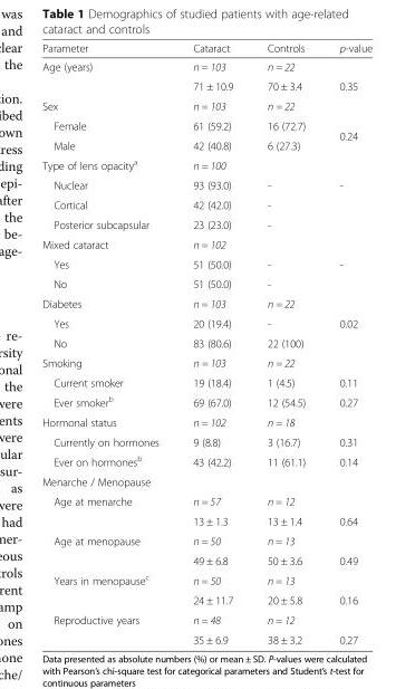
<table><thead><tr><td>Parameter</td><td>Cataract</td><td>Controls</td><td>p-value</td></tr></thead><tbody><tr><td rowspan="2">Age (years)</td><td>n = 103</td><td>n = 22</td><td></td></tr><tr><td>71 ± 10.9</td><td>70 ± 3.4</td><td>0.35</td></tr><tr><td>Sex</td><td>n = 103</td><td>n = 22</td><td></td></tr><tr><td>Female</td><td>61 (59.2)</td><td>16 (72.7)</td><td rowspan="2">0.24</td></tr><tr><td>Male</td><td>42 (40.8)</td><td>6 (27.3)</td></tr><tr><td>Type of lens opacity<sup>a</sup></td><td>n = 100</td><td></td><td></td></tr><tr><td>Nuclear</td><td>93 (93.0)</td><td>-</td><td>-</td></tr><tr><td>Cortical</td><td>42 (42.0)</td><td>-</td><td></td></tr><tr><td>Posterior subcapsular</td><td>23 (23.0)</td><td>-</td><td></td></tr><tr><td>Mixed cataract</td><td>n = 102</td><td></td><td></td></tr><tr><td>Yes</td><td>51 (50.0)</td><td>-</td><td>-</td></tr><tr><td>No</td><td>51 (50.0)</td><td>-</td><td></td></tr><tr><td>Diabetes</td><td>n = 103</td><td>n = 22</td><td></td></tr><tr><td>Yes</td><td>20 (19.4)</td><td>-</td><td>0.02</td></tr><tr><td>No</td><td>83 (80.6)</td><td>22 (100)</td><td></td></tr><tr><td>Smoking</td><td>n = 103</td><td>n = 22</td><td></td></tr><tr><td>Current smoker</td><td>19 (18.4)</td><td>1 (4.5)</td><td>0.11</td></tr><tr><td>Ever smoker<sup>b</sup></td><td>69 (67.0)</td><td>12 (54.5)</td><td>0.27</td></tr><tr><td>Hormonal status</td><td>n = 102</td><td>n = 18</td><td></td></tr><tr><td>Currently on hormones</td><td>9 (8.8)</td><td>3 (16.7)</td><td>0.31</td></tr><tr><td>Ever on hormones<sup>b</sup></td><td>43 (42.2)</td><td>11 (61.1)</td><td>0.14</td></tr><tr><td colspan="4">Menarche / Menopause</td></tr><tr><td rowspan="2">Age at menarche</td><td>n = 57</td><td>n = 12</td><td></td></tr><tr><td>13 ± 1.3</td><td>13 ± 1.4</td><td>0.64</td></tr><tr><td rowspan="2">Age at menopause</td><td>n = 50</td><td>n = 13</td><td></td></tr><tr><td>49 ± 6.8</td><td>50 ± 3.6</td><td>0.49</td></tr><tr><td rowspan="2">Years in menopause<sup>c</sup></td><td>n = 50</td><td>n = 13</td><td></td></tr><tr><td>24 ± 11.7</td><td>20 ± 5.8</td><td>0.16</td></tr><tr><td rowspan="2">Reproductive years</td><td>n = 48</td><td>n = 12</td><td></td></tr><tr><td>35 ± 6.9</td><td>38 ± 3.2</td><td>0.27</td></tr></tbody></table>